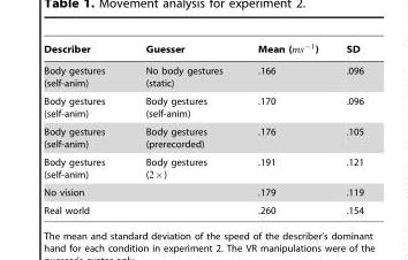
<table><thead><tr><td>Describer</td><td>Guesser</td><td>Mean (ms{1)</td><td>SD</td></tr></thead><tbody><tr><td>Body gestures (self-anim)</td><td>No body gestures (static)</td><td>.166</td><td>.096</td></tr><tr><td>Body gestures (self-anim)</td><td>Body gestures (self-anim)</td><td>.170</td><td>.096</td></tr><tr><td>Body gestures (self-anim)</td><td>Body gestures (prerecorded)</td><td>.176</td><td>.105</td></tr><tr><td>Body gestures (self-anim)</td><td>Body gestures (2|)</td><td>.191</td><td>.121</td></tr><tr><td colspan="2">No vision</td><td>.179</td><td>.119</td></tr><tr><td colspan="2">Real world</td><td>.260</td><td>.154</td></tr></tbody></table>